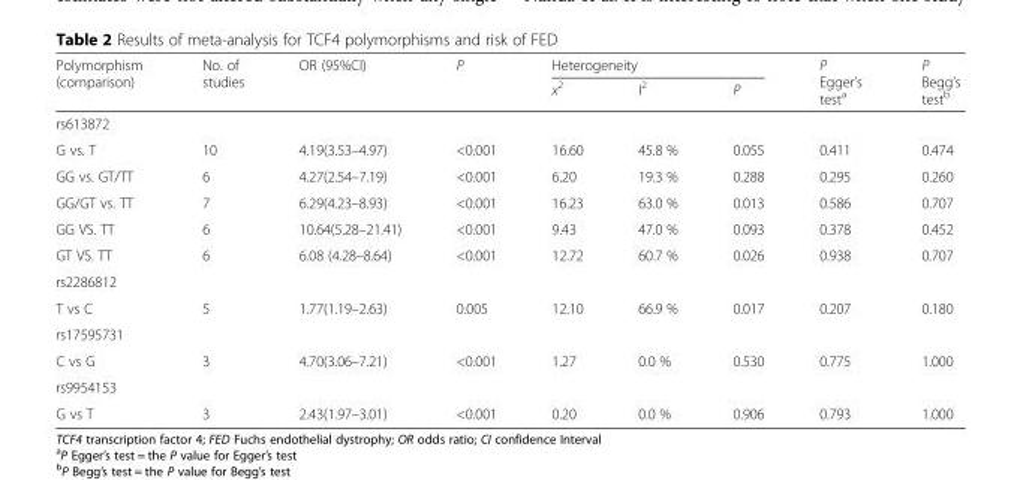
<table><thead><tr><td rowspan="2">Polymorphism (comparison)</td><td rowspan="2">No. of studies</td><td rowspan="2">OR (95%CI)</td><td rowspan="2">P</td><td colspan="3">Heterogeneity</td><td rowspan="2">P Egger’s test<sup>a</sup></td><td rowspan="2">P Begg’s test<sup>b</sup></td></tr><tr><td>x<sup>2</sup></td><td>I<sup>2</sup></td><td>P</td></tr></thead><tbody><tr><td colspan="9">rs613872</td></tr><tr><td>G vs. T</td><td>10</td><td>4.19(3.53–4.97)</td><td>&lt;0.001</td><td>16.60</td><td>45.8 %</td><td>0.055</td><td>0.411</td><td>0.474</td></tr><tr><td>GG vs. GT/TT</td><td>6</td><td>4.27(2.54–7.19)</td><td>&lt;0.001</td><td>6.20</td><td>19.3 %</td><td>0.288</td><td>0.295</td><td>0.260</td></tr><tr><td>GG/GT vs. TT</td><td>7</td><td>6.29(4.23–8.93)</td><td>&lt;0.001</td><td>16.23</td><td>63.0 %</td><td>0.013</td><td>0.586</td><td>0.707</td></tr><tr><td>GG VS. TT</td><td>6</td><td>10.64(5.28–21.41)</td><td>&lt;0.001</td><td>9.43</td><td>47.0 %</td><td>0.093</td><td>0.378</td><td>0.452</td></tr><tr><td>GT VS. TT</td><td>6</td><td>6.08 (4.28–8.64)</td><td>&lt;0.001</td><td>12.72</td><td>60.7 %</td><td>0.026</td><td>0.938</td><td>0.707</td></tr><tr><td colspan="9">rs2286812</td></tr><tr><td>T vs C</td><td>5</td><td>1.77(1.19–2.63)</td><td>0.005</td><td>12.10</td><td>66.9 %</td><td>0.017</td><td>0.207</td><td>0.180</td></tr><tr><td colspan="9">rs17595731</td></tr><tr><td>C vs G</td><td>3</td><td>4.70(3.06–7.21)</td><td>&lt;0.001</td><td>1.27</td><td>0.0 %</td><td>0.530</td><td>0.775</td><td>1.000</td></tr><tr><td colspan="9">rs9954153</td></tr><tr><td>G vs T</td><td>3</td><td>2.43(1.97–3.01)</td><td>&lt;0.001</td><td>0.20</td><td>0.0 %</td><td>0.906</td><td>0.793</td><td>1.000</td></tr></tbody></table>